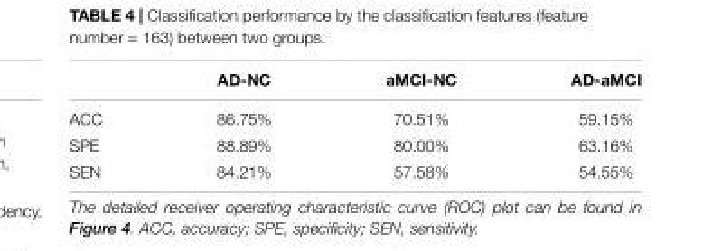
<table><thead><tr><td></td><td>AD-NC</td><td>aMCI-NC</td><td>AD-aMCI</td></tr></thead><tbody><tr><td>ACC</td><td>86.75%</td><td>70.51%</td><td>59.15%</td></tr><tr><td>SPE</td><td>88.89%</td><td>80.00%</td><td>63.16%</td></tr><tr><td>SEN</td><td>84.21%</td><td>57.58%</td><td>54.55%</td></tr></tbody></table>